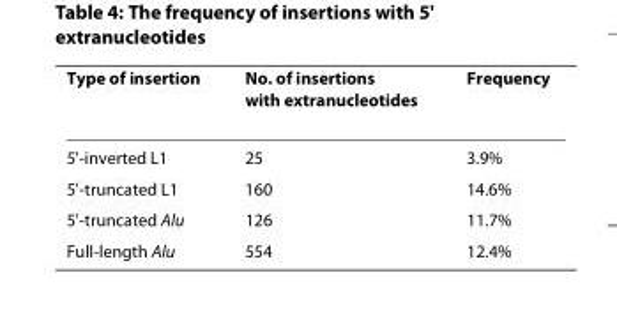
<table><thead><tr><td>Type of insertion</td><td>No. of insertions with extranucleotides</td><td>Frequency</td></tr></thead><tbody><tr><td>5&#x27;-inverted L1</td><td>25</td><td>3.9%</td></tr><tr><td>5&#x27;-truncated L1</td><td>160</td><td>14.6%</td></tr><tr><td>5&#x27;-truncated Alu</td><td>126</td><td>11.7%</td></tr><tr><td>Full-length Alu</td><td>554</td><td>12.4%</td></tr></tbody></table>